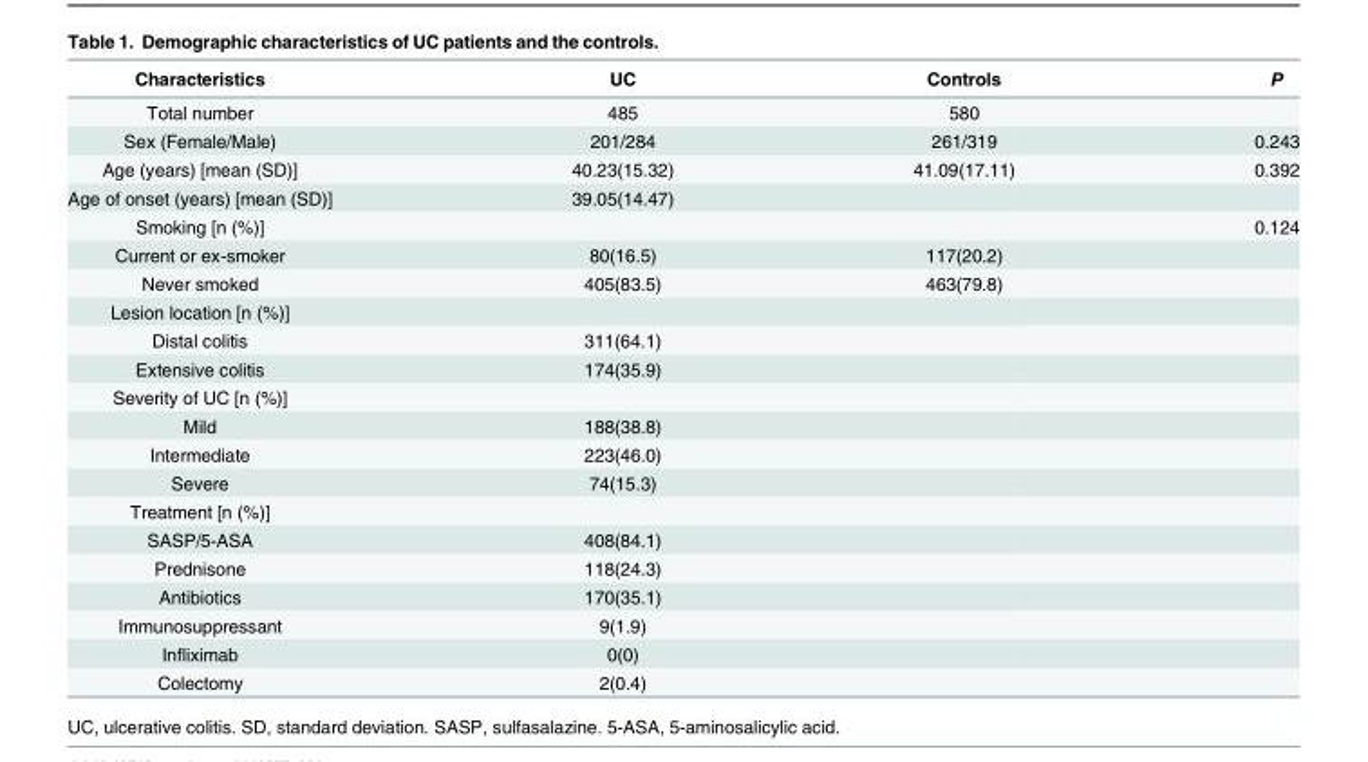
<table><thead><tr><td>Characteristics</td><td>UC</td><td>Controls</td><td>P</td></tr></thead><tbody><tr><td>Total number</td><td>485</td><td>580</td><td></td></tr><tr><td>Sex (Female/Male)</td><td>201/284</td><td>261/319</td><td>0.243</td></tr><tr><td>Age (years) [mean (SD)]</td><td>40.23(15.32)</td><td>41.09(17.11)</td><td>0.392</td></tr><tr><td>Age of onset (years) [mean (SD)]</td><td>39.05(14.47)</td><td></td><td></td></tr><tr><td>Smoking [n (%)]</td><td></td><td></td><td>0.124</td></tr><tr><td>Current or ex-smoker</td><td>80(16.5)</td><td>117(20.2)</td><td></td></tr><tr><td>Never smoked</td><td>405(83.5)</td><td>463(79.8)</td><td></td></tr><tr><td colspan="4">Lesion location [n (%)]</td></tr><tr><td>Distal colitis</td><td>311(64.1)</td><td></td><td></td></tr><tr><td>Extensive colitis</td><td>174(35.9)</td><td></td><td></td></tr><tr><td colspan="4">Severity of UC [n (%)]</td></tr><tr><td>Mild</td><td>188(38.8)</td><td></td><td></td></tr><tr><td>Intermediate</td><td>223(46.0)</td><td></td><td></td></tr><tr><td>Severe</td><td>74(15.3)</td><td></td><td></td></tr><tr><td colspan="4">Treatment [n (%)]</td></tr><tr><td>SASP/5-ASA</td><td>408(84.1)</td><td></td><td></td></tr><tr><td>Prednisone</td><td>118(24.3)</td><td></td><td></td></tr><tr><td>Antibiotics</td><td>170(35.1)</td><td></td><td></td></tr><tr><td>Immunosuppressant</td><td>9(1.9)</td><td></td><td></td></tr><tr><td>Infliximab</td><td>0(0)</td><td></td><td></td></tr><tr><td>Colectomy</td><td>2(0.4)</td><td></td><td></td></tr></tbody></table>